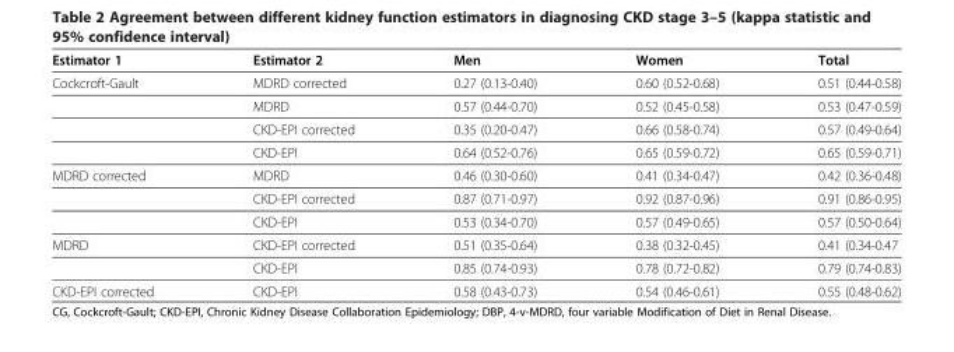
<table><thead><tr><td>Estimator 1</td><td>Estimator 2</td><td>Men</td><td>Women</td><td>Total</td></tr></thead><tbody><tr><td rowspan="4">Cockcroft-Gault</td><td>MDRD corrected</td><td>0.27 (0.13-0.40)</td><td>0.60 (0.52-0.68)</td><td>0.51 (0.44-0.58)</td></tr><tr><td>MDRD</td><td>0.57 (0.44-0.70)</td><td>0.52 (0.45-0.58)</td><td>0.53 (0.47-0.59)</td></tr><tr><td>CKD-EPI corrected</td><td>0.35 (0.20-0.47)</td><td>0.66 (0.58-0.74)</td><td>0.57 (0.49-0.64)</td></tr><tr><td>CKD-EPI</td><td>0.64 (0.52-0.76)</td><td>0.65 (0.59-0.72)</td><td>0.65 (0.59-0.71)</td></tr><tr><td rowspan="3">MDRD corrected</td><td>MDRD</td><td>0.46 (0.30-0.60)</td><td>0.41 (0.34-0.47)</td><td>0.42 (0.36-0.48)</td></tr><tr><td>CKD-EPI corrected</td><td>0.87 (0.71-0.97)</td><td>0.92 (0.87-0.96)</td><td>0.91 (0.86-0.95)</td></tr><tr><td>CKD-EPI</td><td>0.53 (0.34-0.70)</td><td>0.57 (0.49-0.65)</td><td>0.57 (0.50-0.64)</td></tr><tr><td rowspan="2">MDRD</td><td>CKD-EPI corrected</td><td>0.51 (0.35-0.64)</td><td>0.38 (0.32-0.45)</td><td>0.41 (0.34-0.47</td></tr><tr><td>CKD-EPI</td><td>0.85 (0.74-0.93)</td><td>0.78 (0.72-0.82)</td><td>0.79 (0.74-0.83)</td></tr><tr><td>CKD-EPI corrected</td><td>CKD-EPI</td><td>0.58 (0.43-0.73)</td><td>0.54 (0.46-0.61)</td><td>0.55 (0.48-0.62)</td></tr></tbody></table>